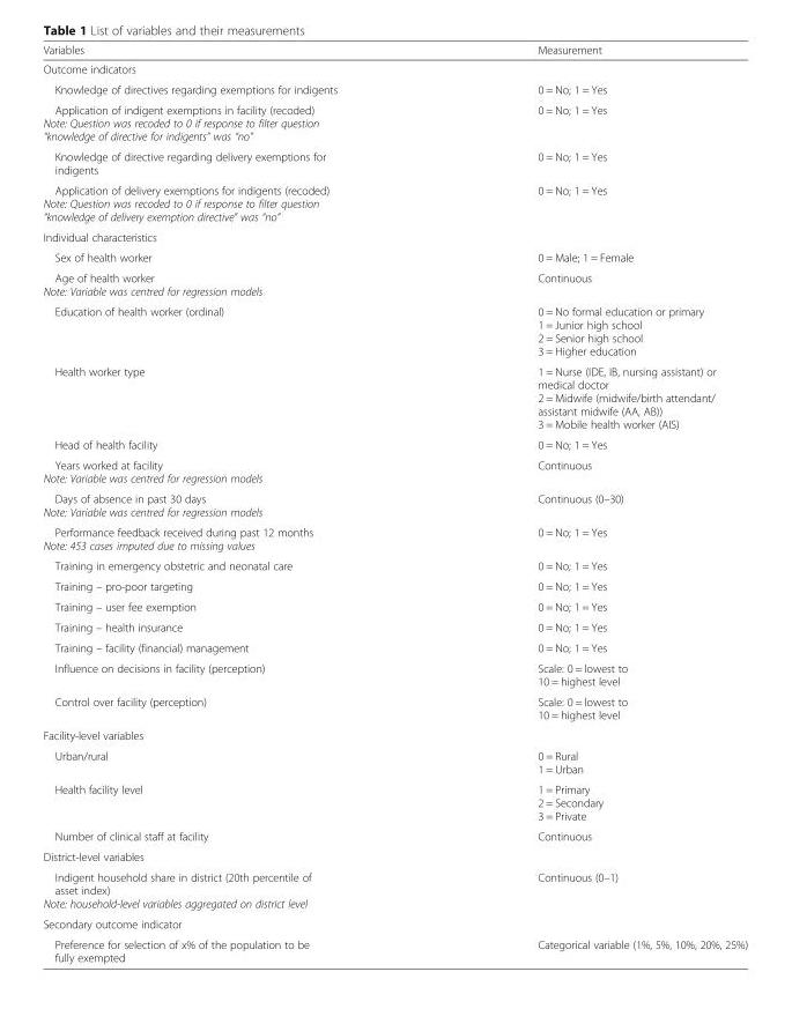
<table><thead><tr><td>Variables</td><td>Measurement</td></tr></thead><tbody><tr><td colspan="2">Outcome indicators</td></tr><tr><td>Knowledge of directives regarding exemptions for indigents</td><td>0 = No; 1 = Yes</td></tr><tr><td>Application of indigent exemptions in facility (recoded) Note: Question was recoded to 0 if response to filter question “knowledge of directive for indigents” was “no”</td><td>0 = No; 1 = Yes</td></tr><tr><td>Knowledge of directive regarding delivery exemptions for indigents</td><td>0 = No; 1 = Yes</td></tr><tr><td>Application of delivery exemptions for indigents (recoded) Note: Question was recoded to 0 if response to filter question “knowledge of delivery exemption directive” was “no”</td><td>0 = No; 1 = Yes</td></tr><tr><td colspan="2">Individual characteristics</td></tr><tr><td>Sex of health worker</td><td>0 = Male; 1 = Female</td></tr><tr><td>Age of health worker Note: Variable was centred for regression models</td><td>Continuous</td></tr><tr><td>Education of health worker (ordinal)</td><td>0 = No formal education or primary 1 = Junior high school 2 = Senior high school 3 = Higher education</td></tr><tr><td>Health worker type</td><td>1 = Nurse (IDE, IB, nursing assistant) or medical doctor 2 = Midwife (midwife/birth attendant/ assistant midwife (AA, AB)) 3 = Mobile health worker (AIS)</td></tr><tr><td>Head of health facility</td><td>0 = No; 1 = Yes</td></tr><tr><td>Years worked at facility Note: Variable was centred for regression models</td><td>Continuous</td></tr><tr><td>Days of absence in past 30 days Note: Variable was centred for regression models</td><td>Continuous (0–30)</td></tr><tr><td>Performance feedback received during past 12 months Note: 453 cases imputed due to missing values</td><td>0 = No; 1 = Yes</td></tr><tr><td>Training in emergency obstetric and neonatal care</td><td>0 = No; 1 = Yes</td></tr><tr><td>Training – pro-poor targeting</td><td>0 = No; 1 = Yes</td></tr><tr><td>Training – user fee exemption</td><td>0 = No; 1 = Yes</td></tr><tr><td>Training – health insurance</td><td>0 = No; 1 = Yes</td></tr><tr><td>Training – facility (financial) management</td><td>0 = No; 1 = Yes</td></tr><tr><td>Influence on decisions in facility (perception)</td><td>Scale: 0 = lowest to 10 = highest level</td></tr><tr><td>Control over facility (perception)</td><td>Scale: 0 = lowest to 10 = highest level</td></tr><tr><td colspan="2">Facility-level variables</td></tr><tr><td>Urban/rural</td><td>0 = Rural 1 = Urban</td></tr><tr><td>Health facility level</td><td>1 = Primary 2 = Secondary 3 = Private</td></tr><tr><td>Number of clinical staff at facility</td><td>Continuous</td></tr><tr><td colspan="2">District-level variables</td></tr><tr><td>Indigent household share in district (20th percentile of asset index) Note: household-level variables aggregated on district level</td><td>Continuous (0–1)</td></tr><tr><td colspan="2">Secondary outcome indicator</td></tr><tr><td>Preference for selection of x% of the population to be fully exempted</td><td>Categorical variable (1%, 5%, 10%, 20%, 25%)</td></tr></tbody></table>